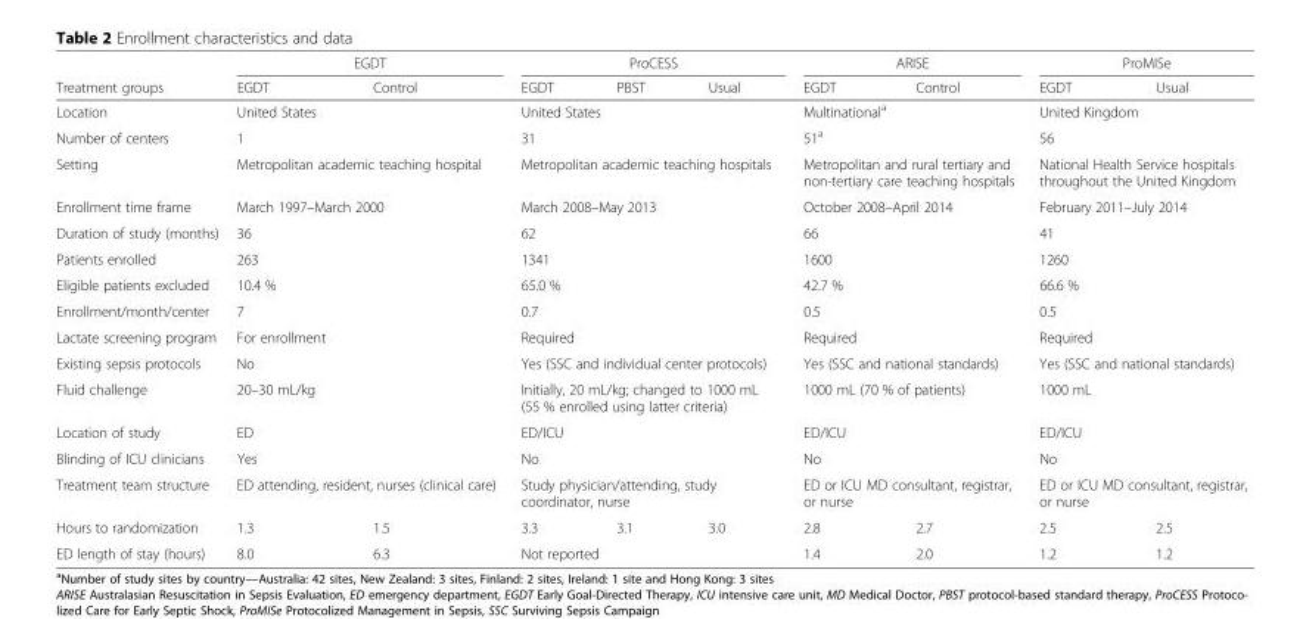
<table><thead><tr><td rowspan="2">Treatment groups</td><td colspan="2">EGDT</td><td colspan="3">ProCESS</td><td colspan="2">ARISE</td><td colspan="2">ProMISe</td></tr><tr><td>EGDT</td><td>Control</td><td>EGDT</td><td>PBST</td><td>Usual</td><td>EGDT</td><td>Control</td><td>EGDT</td><td>Usual</td></tr></thead><tbody><tr><td>Location</td><td colspan="2">United States</td><td colspan="3">United States</td><td colspan="2">Multinational<sup>a</sup></td><td colspan="2">United Kingdom</td></tr><tr><td>Number of centers</td><td colspan="2">1</td><td colspan="3">31</td><td colspan="2">51<sup>a</sup></td><td colspan="2">56</td></tr><tr><td>Setting</td><td colspan="2">Metropolitan academic teaching hospital</td><td colspan="3">Metropolitan academic teaching hospitals</td><td colspan="2">Metropolitan and rural tertiary and non-tertiary care teaching hospitals</td><td colspan="2">National Health Service hospitals throughout the United Kingdom</td></tr><tr><td>Enrollment time frame</td><td colspan="2">March 1997–March 2000</td><td colspan="3">March 2008–May 2013</td><td colspan="2">October 2008–April 2014</td><td colspan="2">February 2011–July 2014</td></tr><tr><td>Duration of study (months)</td><td colspan="2">36</td><td colspan="3">62</td><td colspan="2">66</td><td colspan="2">41</td></tr><tr><td>Patients enrolled</td><td colspan="2">263</td><td colspan="3">1341</td><td colspan="2">1600</td><td colspan="2">1260</td></tr><tr><td>Eligible patients excluded</td><td colspan="2">10.4 %</td><td colspan="3">65.0 %</td><td colspan="2">42.7 %</td><td colspan="2">66.6 %</td></tr><tr><td>Enrollment/month/center</td><td colspan="2">7</td><td colspan="3">0.7</td><td colspan="2">0.5</td><td colspan="2">0.5</td></tr><tr><td>Lactate screening program</td><td colspan="2">For enrollment</td><td colspan="3">Required</td><td colspan="2">Required</td><td colspan="2">Required</td></tr><tr><td>Existing sepsis protocols</td><td colspan="2">No</td><td colspan="3">Yes (SSC and individual center protocols)</td><td colspan="2">Yes (SSC and national standards)</td><td colspan="2">Yes (SSC and national standards)</td></tr><tr><td>Fluid challenge</td><td colspan="2">20–30 mL/kg</td><td colspan="3">Initially, 20 mL/kg; changed to 1000 mL (55 % enrolled using latter criteria)</td><td colspan="2">1000 mL (70 % of patients)</td><td colspan="2">1000 mL</td></tr><tr><td>Location of study</td><td colspan="2">ED</td><td colspan="3">ED/ICU</td><td colspan="2">ED/ICU</td><td colspan="2">ED/ICU</td></tr><tr><td>Blinding of ICU clinicians</td><td colspan="2">Yes</td><td colspan="3">No</td><td colspan="2">No</td><td colspan="2">No</td></tr><tr><td>Treatment team structure</td><td colspan="2">ED attending, resident, nurses (clinical care)</td><td colspan="3">Study physician/attending, study coordinator, nurse</td><td colspan="2">ED or ICU MD consultant, registrar, or nurse</td><td colspan="2">ED or ICU MD consultant, registrar, or nurse</td></tr><tr><td>Hours to randomization</td><td>1.3</td><td>1.5</td><td>3.3</td><td>3.1</td><td>3.0</td><td>2.8</td><td>2.7</td><td>2.5</td><td>2.5</td></tr><tr><td>ED length of stay (hours)</td><td>8.0</td><td>6.3</td><td colspan="3">Not reported</td><td>1.4</td><td>2.0</td><td>1.2</td><td>1.2</td></tr></tbody></table>